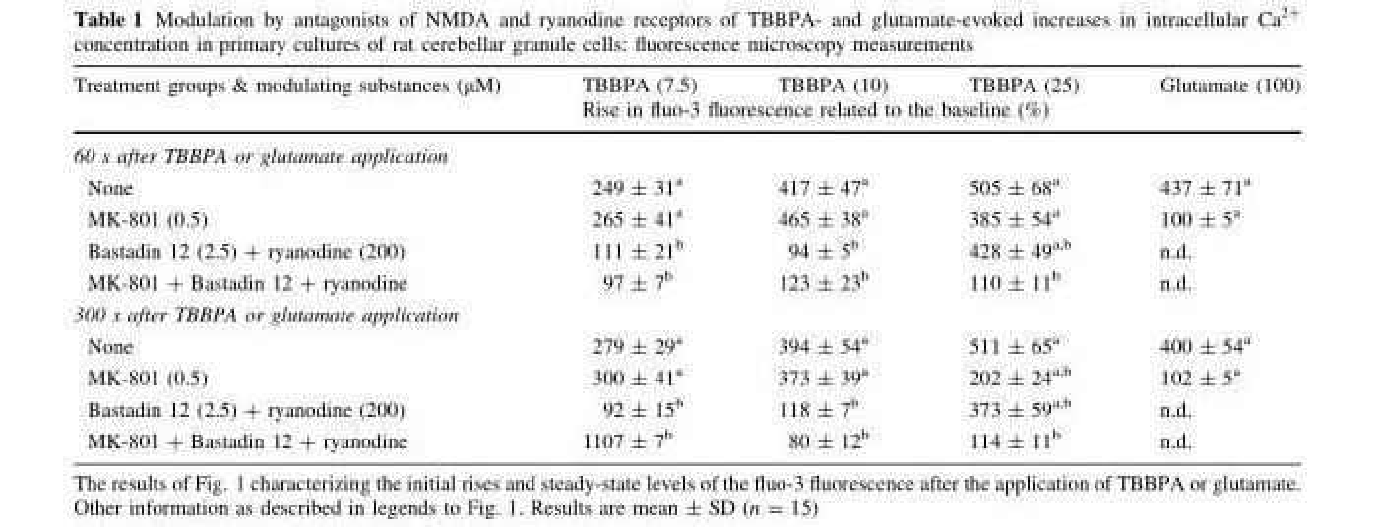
<table><thead><tr><td rowspan="2">Treatment groups &amp; modulating substances (μM)</td><td>TBBPA (7.5)</td><td>TBBPA (10)</td><td>TBBPA (25)</td><td>Glutamate (100)</td></tr><tr><td colspan="4">Rise in fluo-3 fluorescence related to the baseline (%)</td></tr></thead><tbody><tr><td colspan="5">60 s after TBBPA or glutamate application</td></tr><tr><td>None</td><td>249 ± 31<sup>a</sup></td><td>417 ± 47<sup>a</sup></td><td>505 ± 68<sup>a</sup></td><td>437 ± 71<sup>a</sup></td></tr><tr><td>MK-801 (0.5)</td><td>265 ± 41<sup>a</sup></td><td>465 ± 38<sup>a</sup></td><td>385 ± 54<sup>a</sup></td><td>100 ± 5<sup>a</sup></td></tr><tr><td>Bastadin 12 (2.5) + ryanodine (200)</td><td>111 ± 21<sup>b</sup></td><td>94 ± 5<sup>b</sup></td><td>428 ± 49<sup>a,b</sup></td><td>n.d.</td></tr><tr><td>MK-801 + Bastadin 12 + ryanodine</td><td>97 ± 7<sup>b</sup></td><td>123 ± 23<sup>b</sup></td><td>110 ± 11<sup>b</sup></td><td>n.d.</td></tr><tr><td colspan="5">300 s after TBBPA or glutamate application</td></tr><tr><td>None</td><td>279 ± 29<sup>a</sup></td><td>394 ± 54<sup>a</sup></td><td>511 ± 65<sup>a</sup></td><td>400 ± 54<sup>a</sup></td></tr><tr><td>MK-801 (0.5)</td><td>300 ± 41<sup>a</sup></td><td>373 ± 39<sup>a</sup></td><td>202 ± 24<sup>a,b</sup></td><td>102 ± 5<sup>a</sup></td></tr><tr><td>Bastadin 12 (2.5) + ryanodine (200)</td><td>92 ± 15<sup>b</sup></td><td>118 ± 7<sup>b</sup></td><td>373 ± 59<sup>a,b</sup></td><td>n.d.</td></tr><tr><td>MK-801 + Bastadin 12 + ryanodine</td><td>1107 ± 7<sup>b</sup></td><td>80 ± 12<sup>b</sup></td><td>114 ± 11<sup>b</sup></td><td>n.d.</td></tr></tbody></table>